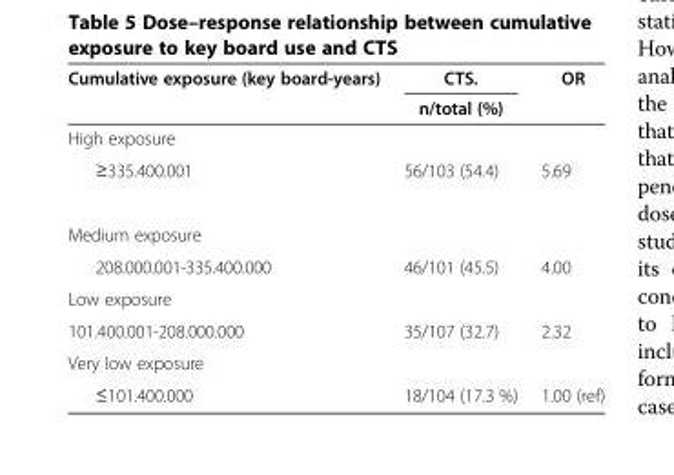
<table><thead><tr><td rowspan="2">Cumulative exposure (key board-years)</td><td rowspan="2">CTS. n/total (%)</td><td rowspan="2">OR</td></tr><tr></tr></thead><tbody><tr><td colspan="3">High exposure</td></tr><tr><td>≥335.400.001</td><td>56/103 (54.4)</td><td>5.69</td></tr><tr><td colspan="3">Medium exposure</td></tr><tr><td>208.000.001-335.400.000</td><td>46/101 (45.5)</td><td>4.00</td></tr><tr><td colspan="3">Low exposure</td></tr><tr><td>101.400.001-208.000.000</td><td>35/107 (32.7)</td><td>2.32</td></tr><tr><td colspan="3">Very low exposure</td></tr><tr><td>≤101.400.000</td><td>18/104 (17.3 %)</td><td>1.00 (ref)</td></tr></tbody></table>